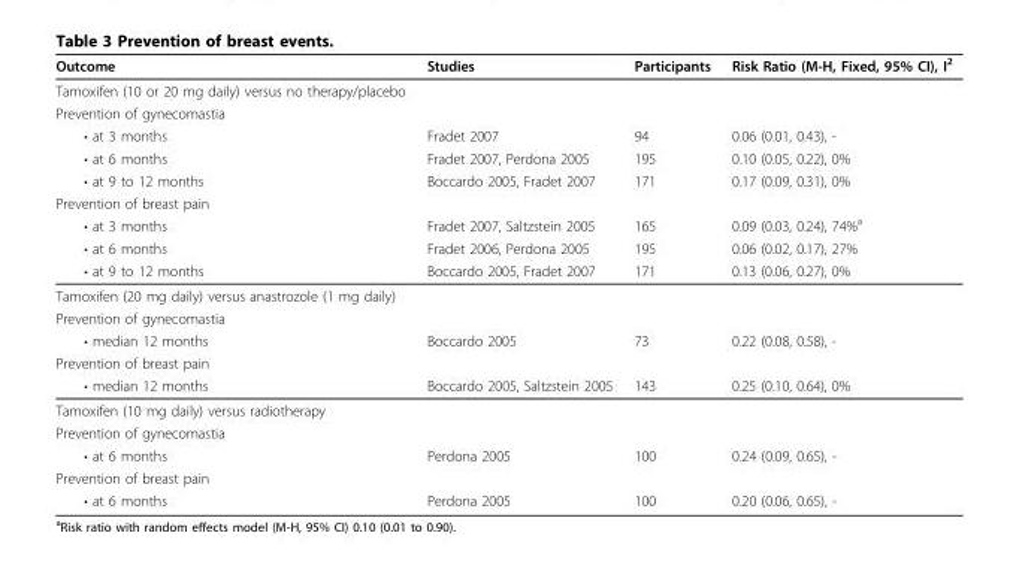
<table><thead><tr><td>Outcome</td><td>Studies</td><td>Participants</td><td>Risk Ratio (M-H, Fixed, 95% CI), I<sup>2</sup></td></tr></thead><tbody><tr><td colspan="4">Tamoxifen (10 or 20 mg daily) versus no therapy/placebo</td></tr><tr><td colspan="4">Prevention of gynecomastia</td></tr><tr><td>• at 3 months</td><td>Fradet 2007</td><td>94</td><td>0.06 (0.01, 0.43), -</td></tr><tr><td>• at 6 months</td><td>Fradet 2007, Perdona 2005</td><td>195</td><td>0.10 (0.05, 0.22), 0%</td></tr><tr><td>• at 9 to 12 months</td><td>Boccardo 2005, Fradet 2007</td><td>171</td><td>0.17 (0.09, 0.31), 0%</td></tr><tr><td colspan="4">Prevention of breast pain</td></tr><tr><td>• at 3 months</td><td>Fradet 2007, Saltzstein 2005</td><td>165</td><td>0.09 (0.03, 0.24), 74%<sup>a</sup></td></tr><tr><td>• at 6 months</td><td>Fradet 2006, Perdona 2005</td><td>195</td><td>0.06 (0.02, 0.17), 27%</td></tr><tr><td>• at 9 to 12 months</td><td>Boccardo 2005, Fradet 2007</td><td>171</td><td>0.13 (0.06, 0.27), 0%</td></tr><tr><td colspan="4">Tamoxifen (20 mg daily) versus anastrozole (1 mg daily)</td></tr><tr><td colspan="4">Prevention of gynecomastia</td></tr><tr><td>• median 12 months</td><td>Boccardo 2005</td><td>73</td><td>0.22 (0.08, 0.58), -</td></tr><tr><td colspan="4">Prevention of breast pain</td></tr><tr><td>• median 12 months</td><td>Boccardo 2005, Saltzstein 2005</td><td>143</td><td>0.25 (0.10, 0.64), 0%</td></tr><tr><td colspan="4">Tamoxifen (10 mg daily) versus radiotherapy</td></tr><tr><td colspan="4">Prevention of gynecomastia</td></tr><tr><td>• at 6 months</td><td>Perdona 2005</td><td>100</td><td>0.24 (0.09, 0.65), -</td></tr><tr><td colspan="4">Prevention of breast pain</td></tr><tr><td>• at 6 months</td><td>Perdona 2005</td><td>100</td><td>0.20 (0.06, 0.65), -</td></tr></tbody></table>